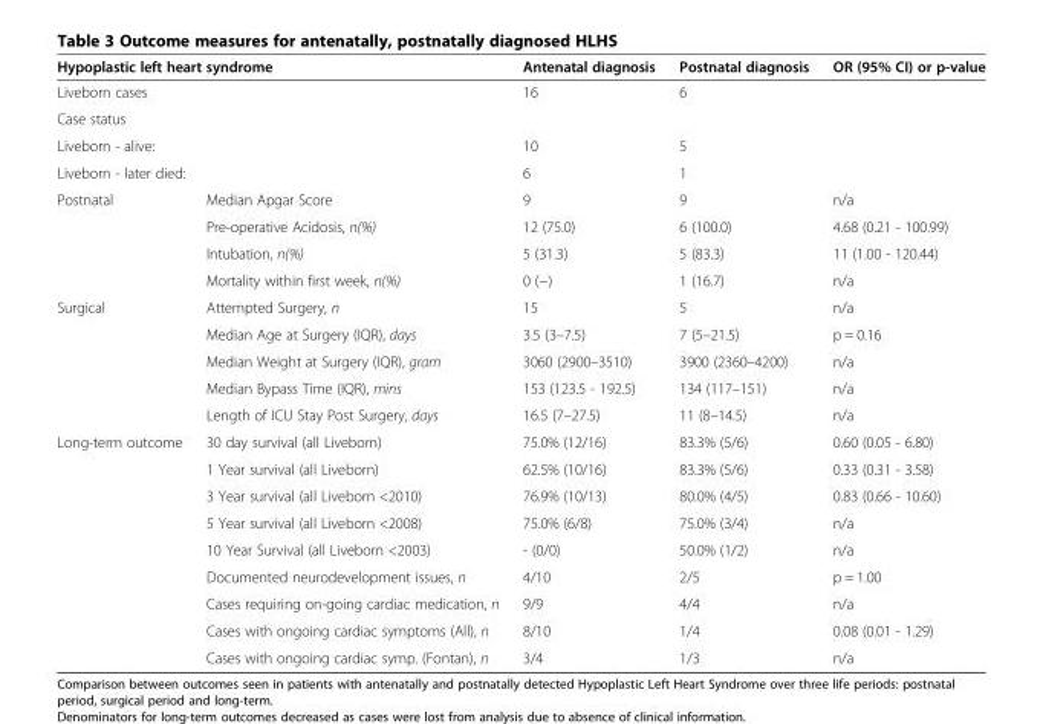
<table><thead><tr><td colspan="2">Hypoplastic left heart syndrome</td><td>Antenatal diagnosis</td><td>Postnatal diagnosis</td><td>OR (95% CI) or p-value</td></tr></thead><tbody><tr><td colspan="2">Liveborn cases</td><td>16</td><td>6</td><td></td></tr><tr><td colspan="5">Case status</td></tr><tr><td colspan="2">Liveborn - alive:</td><td>10</td><td>5</td><td></td></tr><tr><td colspan="2">Liveborn - later died:</td><td>6</td><td>1</td><td></td></tr><tr><td rowspan="4">Postnatal</td><td>Median Apgar Score</td><td>9</td><td>9</td><td>n/a</td></tr><tr><td>Pre-operative Acidosis, n(%)</td><td>12 (75.0)</td><td>6 (100.0)</td><td>4.68 (0.21 - 100.99)</td></tr><tr><td>Intubation, n(%)</td><td>5 (31.3)</td><td>5 (83.3)</td><td>11 (1.00 - 120.44)</td></tr><tr><td>Mortality within first week, n(%)</td><td>0 (−)</td><td>1 (16.7)</td><td>n/a</td></tr><tr><td rowspan="5">Surgical</td><td>Attempted Surgery, n</td><td>15</td><td>5</td><td>n/a</td></tr><tr><td>Median Age at Surgery (IQR), days</td><td>3.5 (3–7.5)</td><td>7 (5–21.5)</td><td>p = 0.16</td></tr><tr><td>Median Weight at Surgery (IQR), gram</td><td>3060 (2900–3510)</td><td>3900 (2360–4200)</td><td>n/a</td></tr><tr><td>Median Bypass Time (IQR), mins</td><td>153 (123.5 - 192.5)</td><td>134 (117–151)</td><td>n/a</td></tr><tr><td>Length of ICU Stay Post Surgery, days</td><td>16.5 (7–27.5)</td><td>11 (8–14.5)</td><td>n/a</td></tr><tr><td rowspan="9">Long-term outcome</td><td>30 day survival (all Liveborn)</td><td>75.0% (12/16)</td><td>83.3% (5/6)</td><td>0.60 (0.05 - 6.80)</td></tr><tr><td>1 Year survival (all Liveborn)</td><td>62.5% (10/16)</td><td>83.3% (5/6)</td><td>0.33 (0.31 - 3.58)</td></tr><tr><td>3 Year survival (all Liveborn &lt;2010)</td><td>76.9% (10/13)</td><td>80.0% (4/5)</td><td>0.83 (0.66 - 10.60)</td></tr><tr><td>5 Year survival (all Liveborn &lt;2008)</td><td>75.0% (6/8)</td><td>75.0% (3/4)</td><td>n/a</td></tr><tr><td>10 Year Survival (all Liveborn &lt;2003)</td><td>- (0/0)</td><td>50.0% (1/2)</td><td>n/a</td></tr><tr><td>Documented neurodevelopment issues, n</td><td>4/10</td><td>2/5</td><td>p = 1.00</td></tr><tr><td>Cases requiring on-going cardiac medication, n</td><td>9/9</td><td>4/4</td><td>n/a</td></tr><tr><td>Cases with ongoing cardiac symptoms (All), n</td><td>8/10</td><td>1/4</td><td>0.08 (0.01 - 1.29)</td></tr><tr><td>Cases with ongoing cardiac symp. (Fontan), n</td><td>3/4</td><td>1/3</td><td>n/a</td></tr></tbody></table>